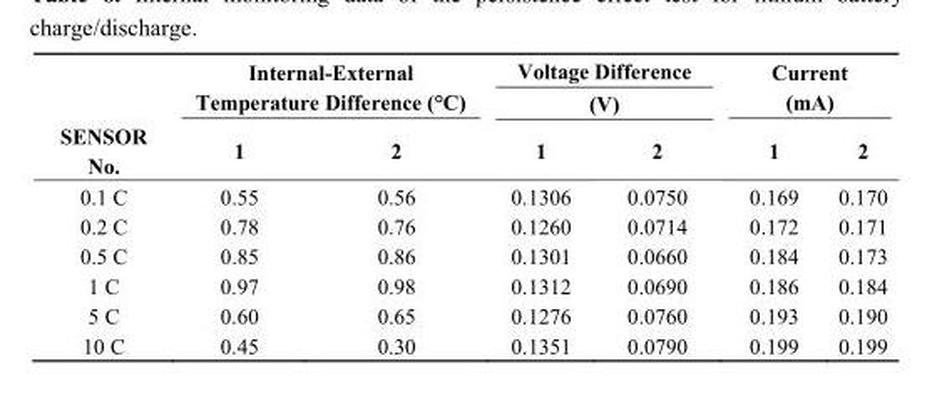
<table><thead><tr><td rowspan="2">SENSOR No.</td><td colspan="2">Internal-External Temperature Difference (°C)</td><td colspan="2">Voltage Difference (V)</td><td colspan="2">Current (mA)</td></tr><tr><td>1</td><td>2</td><td>1</td><td>2</td><td>1</td><td>2</td></tr></thead><tbody><tr><td>0.1 C</td><td>0.55</td><td>0.56</td><td>0.1306</td><td>0.0750</td><td>0.169</td><td>0.170</td></tr><tr><td>0.2 C</td><td>0.78</td><td>0.76</td><td>0.1260</td><td>0.0714</td><td>0.172</td><td>0.171</td></tr><tr><td>0.5 C</td><td>0.85</td><td>0.86</td><td>0.1301</td><td>0.0660</td><td>0.184</td><td>0.173</td></tr><tr><td>1 C</td><td>0.97</td><td>0.98</td><td>0.1312</td><td>0.0690</td><td>0.186</td><td>0.184</td></tr><tr><td>5 C</td><td>0.60</td><td>0.65</td><td>0.1276</td><td>0.0760</td><td>0.193</td><td>0.190</td></tr><tr><td>10 C</td><td>0.45</td><td>0.30</td><td>0.1351</td><td>0.0790</td><td>0.199</td><td>0.199</td></tr></tbody></table>